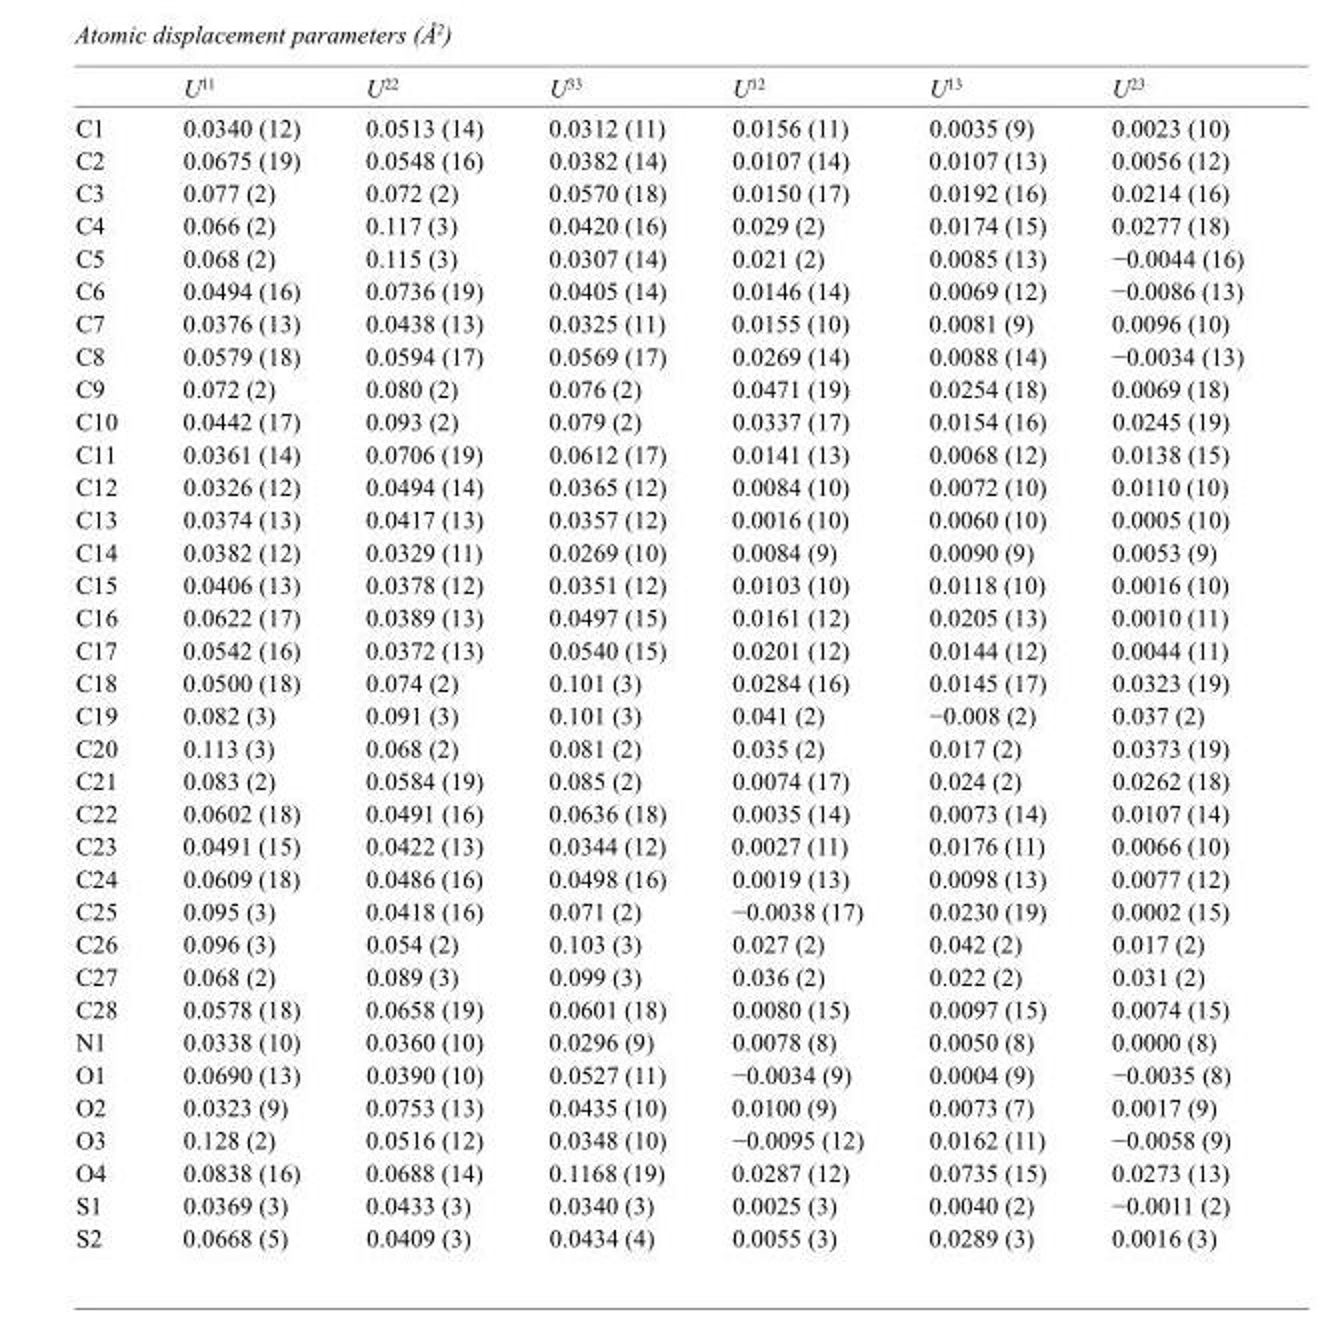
<table><thead><tr><td></td><td>U<sup>11</sup></td><td>U<sup>22</sup></td><td>U<sup>33</sup></td><td>U<sup>12</sup></td><td>U<sup>13</sup></td><td>U<sup>23</sup></td></tr></thead><tbody><tr><td>C1</td><td>0.0340 (12)</td><td>0.0513 (14)</td><td>0.0312 (11)</td><td>0.0156 (11)</td><td>0.0035 (9)</td><td>0.0023 (10)</td></tr><tr><td>C2</td><td>0.0675 (19)</td><td>0.0548 (16)</td><td>0.0382 (14)</td><td>0.0107 (14)</td><td>0.0107 (13)</td><td>0.0056 (12)</td></tr><tr><td>C3</td><td>0.077 (2)</td><td>0.072 (2)</td><td>0.0570 (18)</td><td>0.0150 (17)</td><td>0.0192 (16)</td><td>0.0214 (16)</td></tr><tr><td>C4</td><td>0.066 (2)</td><td>0.117 (3)</td><td>0.0420 (16)</td><td>0.029 (2)</td><td>0.0174 (15)</td><td>0.0277 (18)</td></tr><tr><td>C5</td><td>0.068 (2)</td><td>0.115 (3)</td><td>0.0307 (14)</td><td>0.021 (2)</td><td>0.0085 (13)</td><td>−0.0044 (16)</td></tr><tr><td>C6</td><td>0.0494 (16)</td><td>0.0736 (19)</td><td>0.0405 (14)</td><td>0.0146 (14)</td><td>0.0069 (12)</td><td>−0.0086 (13)</td></tr><tr><td>C7</td><td>0.0376 (13)</td><td>0.0438 (13)</td><td>0.0325 (11)</td><td>0.0155 (10)</td><td>0.0081 (9)</td><td>0.0096 (10)</td></tr><tr><td>C8</td><td>0.0579 (18)</td><td>0.0594 (17)</td><td>0.0569 (17)</td><td>0.0269 (14)</td><td>0.0088 (14)</td><td>−0.0034 (13)</td></tr><tr><td>C9</td><td>0.072 (2)</td><td>0.080 (2)</td><td>0.076 (2)</td><td>0.0471 (19)</td><td>0.0254 (18)</td><td>0.0069 (18)</td></tr><tr><td>C10</td><td>0.0442 (17)</td><td>0.093 (2)</td><td>0.079 (2)</td><td>0.0337 (17)</td><td>0.0154 (16)</td><td>0.0245 (19)</td></tr><tr><td>C11</td><td>0.0361 (14)</td><td>0.0706 (19)</td><td>0.0612 (17)</td><td>0.0141 (13)</td><td>0.0068 (12)</td><td>0.0138 (15)</td></tr><tr><td>C12</td><td>0.0326 (12)</td><td>0.0494 (14)</td><td>0.0365 (12)</td><td>0.0084 (10)</td><td>0.0072 (10)</td><td>0.0110 (10)</td></tr><tr><td>C13</td><td>0.0374 (13)</td><td>0.0417 (13)</td><td>0.0357 (12)</td><td>0.0016 (10)</td><td>0.0060 (10)</td><td>0.0005 (10)</td></tr><tr><td>C14</td><td>0.0382 (12)</td><td>0.0329 (11)</td><td>0.0269 (10)</td><td>0.0084 (9)</td><td>0.0090 (9)</td><td>0.0053 (9)</td></tr><tr><td>C15</td><td>0.0406 (13)</td><td>0.0378 (12)</td><td>0.0351 (12)</td><td>0.0103 (10)</td><td>0.0118 (10)</td><td>0.0016 (10)</td></tr><tr><td>C16</td><td>0.0622 (17)</td><td>0.0389 (13)</td><td>0.0497 (15)</td><td>0.0161 (12)</td><td>0.0205 (13)</td><td>0.0010 (11)</td></tr><tr><td>C17</td><td>0.0542 (16)</td><td>0.0372 (13)</td><td>0.0540 (15)</td><td>0.0201 (12)</td><td>0.0144 (12)</td><td>0.0044 (11)</td></tr><tr><td>C18</td><td>0.0500 (18)</td><td>0.074 (2)</td><td>0.101 (3)</td><td>0.0284 (16)</td><td>0.0145 (17)</td><td>0.0323 (19)</td></tr><tr><td>C19</td><td>0.082 (3)</td><td>0.091 (3)</td><td>0.101 (3)</td><td>0.041 (2)</td><td>−0.008 (2)</td><td>0.037 (2)</td></tr><tr><td>C20</td><td>0.113 (3)</td><td>0.068 (2)</td><td>0.081 (2)</td><td>0.035 (2)</td><td>0.017 (2)</td><td>0.0373 (19)</td></tr><tr><td>C21</td><td>0.083 (2)</td><td>0.0584 (19)</td><td>0.085 (2)</td><td>0.0074 (17)</td><td>0.024 (2)</td><td>0.0262 (18)</td></tr><tr><td>C22</td><td>0.0602 (18)</td><td>0.0491 (16)</td><td>0.0636 (18)</td><td>0.0035 (14)</td><td>0.0073 (14)</td><td>0.0107 (14)</td></tr><tr><td>C23</td><td>0.0491 (15)</td><td>0.0422 (13)</td><td>0.0344 (12)</td><td>0.0027 (11)</td><td>0.0176 (11)</td><td>0.0066 (10)</td></tr><tr><td>C24</td><td>0.0609 (18)</td><td>0.0486 (16)</td><td>0.0498 (16)</td><td>0.0019 (13)</td><td>0.0098 (13)</td><td>0.0077 (12)</td></tr><tr><td>C25</td><td>0.095 (3)</td><td>0.0418 (16)</td><td>0.071 (2)</td><td>−0.0038 (17)</td><td>0.0230 (19)</td><td>0.0002 (15)</td></tr><tr><td>C26</td><td>0.096 (3)</td><td>0.054 (2)</td><td>0.103 (3)</td><td>0.027 (2)</td><td>0.042 (2)</td><td>0.017 (2)</td></tr><tr><td>C27</td><td>0.068 (2)</td><td>0.089 (3)</td><td>0.099 (3)</td><td>0.036 (2)</td><td>0.022 (2)</td><td>0.031 (2)</td></tr><tr><td>C28</td><td>0.0578 (18)</td><td>0.0658 (19)</td><td>0.0601 (18)</td><td>0.0080 (15)</td><td>0.0097 (15)</td><td>0.0074 (15)</td></tr><tr><td>N1</td><td>0.0338 (10)</td><td>0.0360 (10)</td><td>0.0296 (9)</td><td>0.0078 (8)</td><td>0.0050 (8)</td><td>0.0000 (8)</td></tr><tr><td>O1</td><td>0.0690 (13)</td><td>0.0390 (10)</td><td>0.0527 (11)</td><td>−0.0034 (9)</td><td>0.0004 (9)</td><td>−0.0035 (8)</td></tr><tr><td>O2</td><td>0.0323 (9)</td><td>0.0753 (13)</td><td>0.0435 (10)</td><td>0.0100 (9)</td><td>0.0073 (7)</td><td>0.0017 (9)</td></tr><tr><td>O3</td><td>0.128 (2)</td><td>0.0516 (12)</td><td>0.0348 (10)</td><td>−0.0095 (12)</td><td>0.0162 (11)</td><td>−0.0058 (9)</td></tr><tr><td>O4</td><td>0.0838 (16)</td><td>0.0688 (14)</td><td>0.1168 (19)</td><td>0.0287 (12)</td><td>0.0735 (15)</td><td>0.0273 (13)</td></tr><tr><td>S1</td><td>0.0369 (3)</td><td>0.0433 (3)</td><td>0.0340 (3)</td><td>0.0025 (3)</td><td>0.0040 (2)</td><td>−0.0011 (2)</td></tr><tr><td>S2</td><td>0.0668 (5)</td><td>0.0409 (3)</td><td>0.0434 (4)</td><td>0.0055 (3)</td><td>0.0289 (3)</td><td>0.0016 (3)</td></tr></tbody></table>